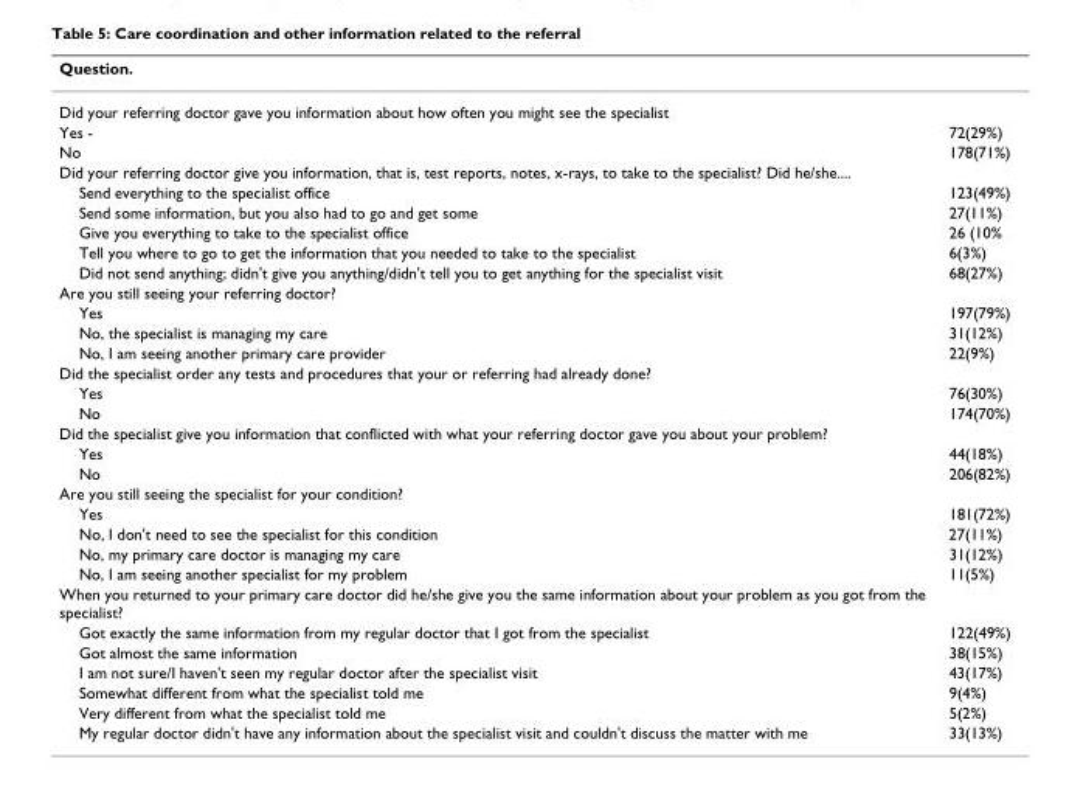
<table><thead><tr><td>Question.</td><td></td></tr></thead><tbody><tr><td colspan="2">Did your referring doctor gave you information about how often you might see the specialist</td></tr><tr><td>Yes -</td><td>72(29%)</td></tr><tr><td>No</td><td>178(71%)</td></tr><tr><td colspan="2">Did your referring doctor give you information, that is, test reports, notes, x-rays, to take to the specialist? Did he/she....</td></tr><tr><td>Send everything to the specialist office</td><td>123(49%)</td></tr><tr><td>Send some information, but you also had to go and get some</td><td>27(11%)</td></tr><tr><td>Give you everything to take to the specialist office</td><td>26 (10%</td></tr><tr><td>Tell you where to go to get the information that you needed to take to the specialist</td><td>6(3%)</td></tr><tr><td>Did not send anything; didn&#x27;t give you anything/didn&#x27;t tell you to get anything for the specialist visit</td><td>68(27%)</td></tr><tr><td colspan="2">Are you still seeing your referring doctor?</td></tr><tr><td>Yes</td><td>197(79%)</td></tr><tr><td>No, the specialist is managing my care</td><td>31(12%)</td></tr><tr><td>No, I am seeing another primary care provider</td><td>22(9%)</td></tr><tr><td colspan="2">Did the specialist order any tests and procedures that your or referring had already done?</td></tr><tr><td>Yes</td><td>76(30%)</td></tr><tr><td>No</td><td>174(70%)</td></tr><tr><td colspan="2">Did the specialist give you information that conflicted with what your referring doctor gave you about your problem?</td></tr><tr><td>Yes</td><td>44(18%)</td></tr><tr><td>No</td><td>206(82%)</td></tr><tr><td colspan="2">Are you still seeing the specialist for your condition?</td></tr><tr><td>Yes</td><td>181(72%)</td></tr><tr><td>No, I don&#x27;t need to see the specialist for this condition</td><td>27(11%)</td></tr><tr><td>No, my primary care doctor is managing my care</td><td>31(12%)</td></tr><tr><td>No, I am seeing another specialist for my problem</td><td>11(5%)</td></tr><tr><td colspan="2">When you returned to your primary care doctor did he/she give you the same information about your problem as you got from the specialist?</td></tr><tr><td>Got exactly the same information from my regular doctor that I got from the specialist</td><td>122(49%)</td></tr><tr><td>Got almost the same information</td><td>38(15%)</td></tr><tr><td>I am not sure/I haven&#x27;t seen my regular doctor after the specialist visit</td><td>43(17%)</td></tr><tr><td>Somewhat different from what the specialist told me</td><td>9(4%)</td></tr><tr><td>Very different from what the specialist told me</td><td>5(2%)</td></tr><tr><td>My regular doctor didn&#x27;t have any information about the specialist visit and couldn&#x27;t discuss the matter with me</td><td>33(13%)</td></tr></tbody></table>